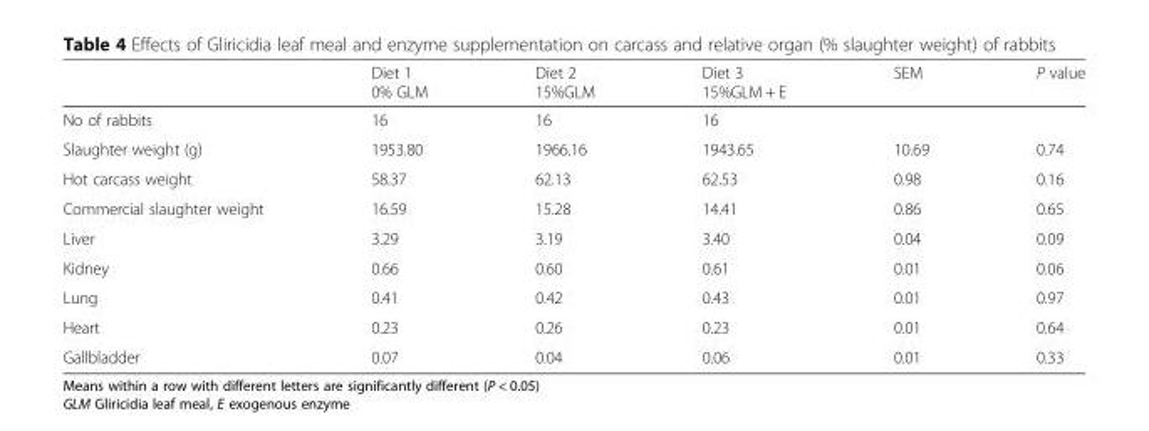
<table><thead><tr><td></td><td>Diet 1 0% GLM</td><td>Diet 2 15%GLM</td><td>Diet 3 15%GLM + E</td><td>SEM</td><td>P value</td></tr></thead><tbody><tr><td>No of rabbits</td><td>16</td><td>16</td><td>16</td><td></td><td></td></tr><tr><td>Slaughter weight (g)</td><td>1953.80</td><td>1966.16</td><td>1943.65</td><td>10.69</td><td>0.74</td></tr><tr><td>Hot carcass weight</td><td>58.37</td><td>62.13</td><td>62.53</td><td>0.98</td><td>0.16</td></tr><tr><td>Commercial slaughter weight</td><td>16.59</td><td>15.28</td><td>14.41</td><td>0.86</td><td>0.65</td></tr><tr><td>Liver</td><td>3.29</td><td>3.19</td><td>3.40</td><td>0.04</td><td>0.09</td></tr><tr><td>Kidney</td><td>0.66</td><td>0.60</td><td>0.61</td><td>0.01</td><td>0.06</td></tr><tr><td>Lung</td><td>0.41</td><td>0.42</td><td>0.43</td><td>0.01</td><td>0.97</td></tr><tr><td>Heart</td><td>0.23</td><td>0.26</td><td>0.23</td><td>0.01</td><td>0.64</td></tr><tr><td>Gallbladder</td><td>0.07</td><td>0.04</td><td>0.06</td><td>0.01</td><td>0.33</td></tr></tbody></table>